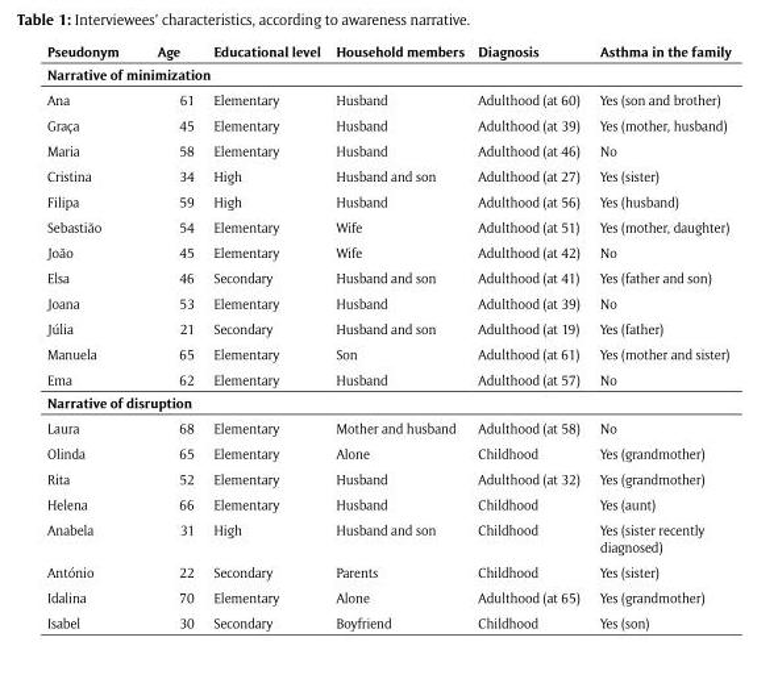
<table><thead><tr><td>Pseudonym</td><td>Age</td><td>Educational level</td><td>Household members</td><td>Diagnosis</td><td>Asthma in the family</td></tr></thead><tbody><tr><td colspan="6">Narrative of minimization</td></tr><tr><td>Ana</td><td>61</td><td>Elementary</td><td>Husband</td><td>Adulthood (at 60)</td><td>Yes (son and brother)</td></tr><tr><td>Graça</td><td>45</td><td>Elementary</td><td>Husband</td><td>Adulthood (at 39)</td><td>Yes (mother, husband)</td></tr><tr><td>Maria</td><td>58</td><td>Elementary</td><td>Husband</td><td>Adulthood (at 46)</td><td>No</td></tr><tr><td>Cristina</td><td>34</td><td>High</td><td>Husband and son</td><td>Adulthood (at 27)</td><td>Yes (sister)</td></tr><tr><td>Filipa</td><td>59</td><td>High</td><td>Husband</td><td>Adulthood (at 56)</td><td>Yes (husband)</td></tr><tr><td>Sebastião</td><td>54</td><td>Elementary</td><td>Wife</td><td>Adulthood (at 51)</td><td>Yes (mother, daughter)</td></tr><tr><td>João</td><td>45</td><td>Elementary</td><td>Wife</td><td>Adulthood (at 42)</td><td>No</td></tr><tr><td>Elsa</td><td>46</td><td>Secondary</td><td>Husband and son</td><td>Adulthood (at 41)</td><td>Yes (father and son)</td></tr><tr><td>Joana</td><td>53</td><td>Elementary</td><td>Husband</td><td>Adulthood (at 39)</td><td>No</td></tr><tr><td>Júlia</td><td>21</td><td>Secondary</td><td>Husband and son</td><td>Adulthood (at 19)</td><td>Yes (father)</td></tr><tr><td>Manuela</td><td>65</td><td>Elementary</td><td>Son</td><td>Adulthood (at 61)</td><td>Yes (mother and sister)</td></tr><tr><td>Ema</td><td>62</td><td>Elementary</td><td>Husband</td><td>Adulthood (at 57)</td><td>No</td></tr><tr><td colspan="6">Narrative of disruption</td></tr><tr><td>Laura</td><td>68</td><td>Elementary</td><td>Mother and husband</td><td>Adulthood (at 58)</td><td>No</td></tr><tr><td>Olinda</td><td>65</td><td>Elementary</td><td>Alone</td><td>Childhood</td><td>Yes (grandmother)</td></tr><tr><td>Rita</td><td>52</td><td>Elementary</td><td>Husband</td><td>Adulthood (at 32)</td><td>Yes (grandmother)</td></tr><tr><td>Helena</td><td>66</td><td>Elementary</td><td>Husband</td><td>Childhood</td><td>Yes (aunt)</td></tr><tr><td>Anabela</td><td>31</td><td>High</td><td>Husband and son</td><td>Childhood</td><td>Yes (sister recently diagnosed)</td></tr><tr><td>António</td><td>22</td><td>Secondary</td><td>Parents</td><td>Childhood</td><td>Yes (sister)</td></tr><tr><td>Idalina</td><td>70</td><td>Elementary</td><td>Alone</td><td>Adulthood (at 65)</td><td>Yes (grandmother)</td></tr><tr><td>Isabel</td><td>30</td><td>Secondary</td><td>Boyfriend</td><td>Childhood</td><td>Yes (son)</td></tr></tbody></table>